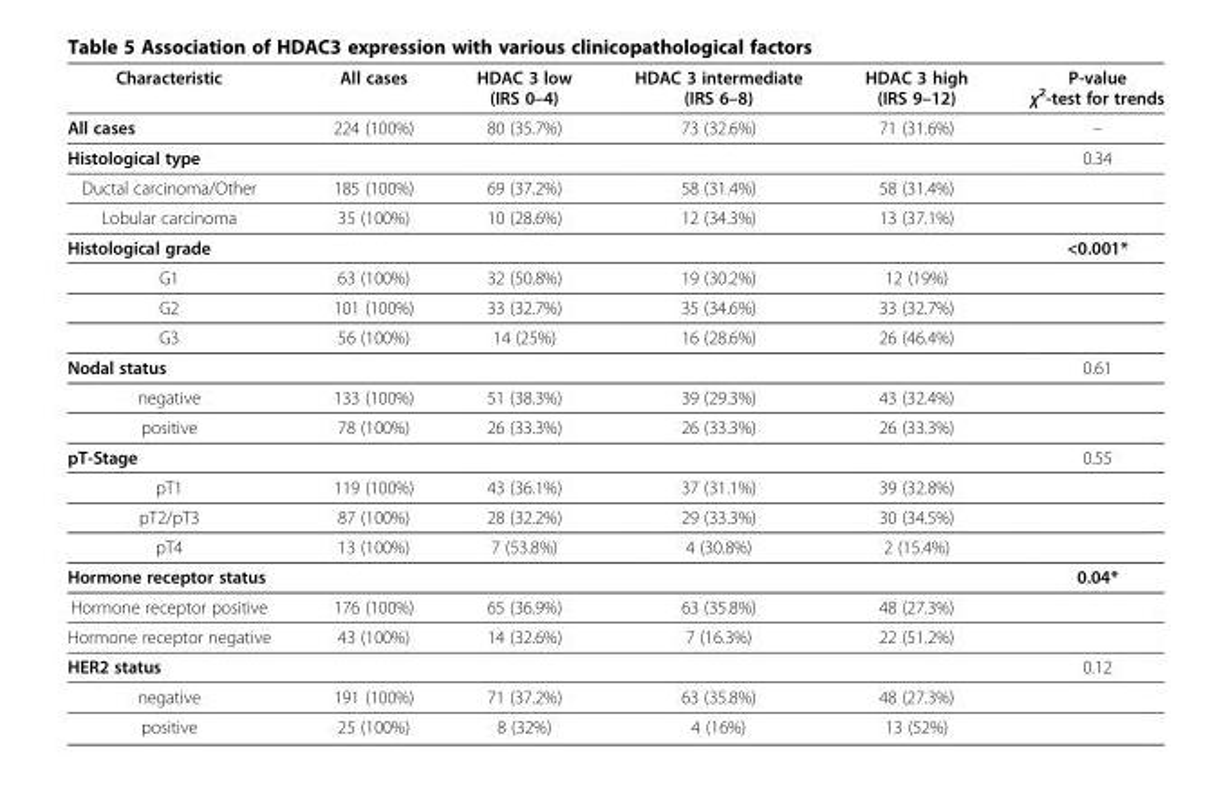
<table><thead><tr><td>Characteristic</td><td>All cases</td><td>HDAC 3 low (IRS 0–4)</td><td>HDAC 3 intermediate (IRS 6–8)</td><td>HDAC 3 high (IRS 9–12)</td><td>P-value χ<sup>2</sup>-test for trends</td></tr></thead><tbody><tr><td>All cases</td><td>224 (100%)</td><td>80 (35.7%)</td><td>73 (32.6%)</td><td>71 (31.6%)</td><td>–</td></tr><tr><td>Histological type</td><td></td><td></td><td></td><td></td><td>0.34</td></tr><tr><td>Ductal carcinoma/Other</td><td>185 (100%)</td><td>69 (37.2%)</td><td>58 (31.4%)</td><td>58 (31.4%)</td><td></td></tr><tr><td>Lobular carcinoma</td><td>35 (100%)</td><td>10 (28.6%)</td><td>12 (34.3%)</td><td>13 (37.1%)</td><td></td></tr><tr><td>Histological grade</td><td></td><td></td><td></td><td></td><td>&lt;0.001*</td></tr><tr><td>G1</td><td>63 (100%)</td><td>32 (50.8%)</td><td>19 (30.2%)</td><td>12 (19%)</td><td></td></tr><tr><td>G2</td><td>101 (100%)</td><td>33 (32.7%)</td><td>35 (34.6%)</td><td>33 (32.7%)</td><td></td></tr><tr><td>G3</td><td>56 (100%)</td><td>14 (25%)</td><td>16 (28.6%)</td><td>26 (46.4%)</td><td></td></tr><tr><td>Nodal status</td><td></td><td></td><td></td><td></td><td>0.61</td></tr><tr><td>negative</td><td>133 (100%)</td><td>51 (38.3%)</td><td>39 (29.3%)</td><td>43 (32.4%)</td><td></td></tr><tr><td>positive</td><td>78 (100%)</td><td>26 (33.3%)</td><td>26 (33.3%)</td><td>26 (33.3%)</td><td></td></tr><tr><td>pT-Stage</td><td></td><td></td><td></td><td></td><td>0.55</td></tr><tr><td>pT1</td><td>119 (100%)</td><td>43 (36.1%)</td><td>37 (31.1%)</td><td>39 (32.8%)</td><td></td></tr><tr><td>pT2/pT3</td><td>87 (100%)</td><td>28 (32.2%)</td><td>29 (33.3%)</td><td>30 (34.5%)</td><td></td></tr><tr><td>pT4</td><td>13 (100%)</td><td>7 (53.8%)</td><td>4 (30.8%)</td><td>2 (15.4%)</td><td></td></tr><tr><td>Hormone receptor status</td><td></td><td></td><td></td><td></td><td>0.04*</td></tr><tr><td>Hormone receptor positive</td><td>176 (100%)</td><td>65 (36.9%)</td><td>63 (35.8%)</td><td>48 (27.3%)</td><td></td></tr><tr><td>Hormone receptor negative</td><td>43 (100%)</td><td>14 (32.6%)</td><td>7 (16.3%)</td><td>22 (51.2%)</td><td></td></tr><tr><td>HER2 status</td><td></td><td></td><td></td><td></td><td>0.12</td></tr><tr><td>negative</td><td>191 (100%)</td><td>71 (37.2%)</td><td>63 (35.8%)</td><td>48 (27.3%)</td><td></td></tr><tr><td>positive</td><td>25 (100%)</td><td>8 (32%)</td><td>4 (16%)</td><td>13 (52%)</td><td></td></tr></tbody></table>